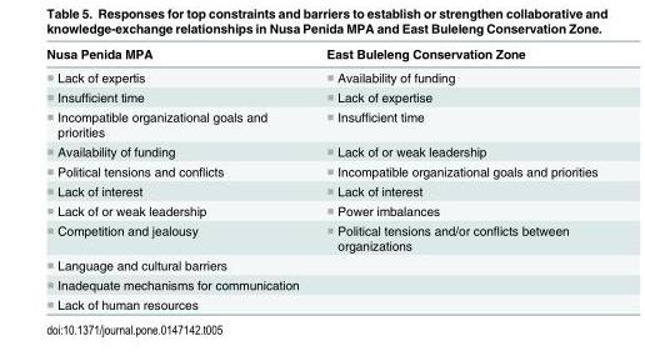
<table><thead><tr><td>Nusa Penida MPA</td><td>East Buleleng Conservation Zone</td></tr></thead><tbody><tr><td>■ Lack of expertis</td><td>■ Availability of funding</td></tr><tr><td>■ Insufficient time</td><td>■ Lack of expertise</td></tr><tr><td>■ Incompatible organizational goals and priorities</td><td>■ Insufficient time</td></tr><tr><td>■ Availability of funding</td><td>■ Lack of or weak leadership</td></tr><tr><td>■ Political tensions and conflicts</td><td>■ Incompatible organizational goals and priorities</td></tr><tr><td>■ Lack of interest</td><td>■ Lack of interest</td></tr><tr><td>■ Lack of or weak leadership</td><td>■ Power imbalances</td></tr><tr><td>■ Competition and jealousy</td><td>■ Political tensions and/or conflicts between organizations</td></tr><tr><td colspan="2">■ Language and cultural barriers</td></tr><tr><td colspan="2">■ Inadequate mechanisms for communication</td></tr><tr><td>■ Lack of human resources</td><td></td></tr></tbody></table>